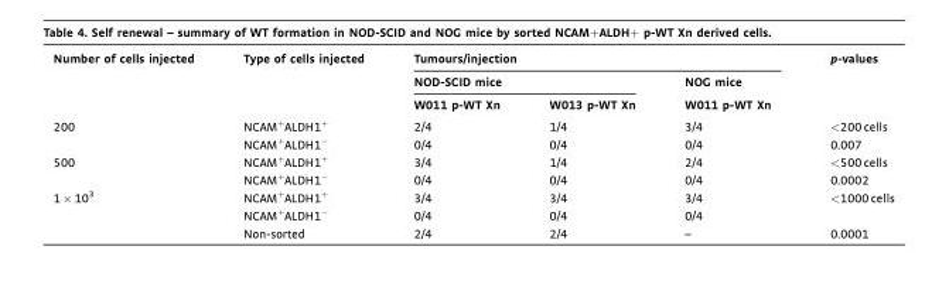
<table><thead><tr><td rowspan="3">Number of cells injected</td><td rowspan="3">Type of cells injected</td><td colspan="3">Tumours/injection</td><td rowspan="3">p-values</td></tr><tr><td colspan="2">NOD-SCID mice</td><td rowspan="2">NOG mice W011 p-WT Xn</td></tr><tr><td>W011 p-WT Xn</td><td>W013 p-WT Xn</td></tr></thead><tbody><tr><td rowspan="2">200</td><td>NCAM<sup>+</sup>ALDH1<sup>+</sup></td><td>2/4</td><td>1/4</td><td>3/4</td><td>&lt;200 cells</td></tr><tr><td>NCAM<sup>+</sup>ALDH1<sup>−</sup></td><td>0/4</td><td>0/4</td><td>0/4</td><td>0.007</td></tr><tr><td rowspan="2">500</td><td>NCAM<sup>+</sup>ALDH1<sup>+</sup></td><td>3/4</td><td>1/4</td><td>2/4</td><td>&lt;500 cells</td></tr><tr><td>NCAM<sup>+</sup>ALDH1<sup>−</sup></td><td>0/4</td><td>0/4</td><td>0/4</td><td>0.0002</td></tr><tr><td rowspan="3">1 × 10<sup>3</sup></td><td>NCAM<sup>+</sup>ALDH1<sup>+</sup></td><td>3/4</td><td>3/4</td><td>3/4</td><td>&lt;1000 cells</td></tr><tr><td>NCAM<sup>+</sup>ALDH1<sup>−</sup></td><td>0/4</td><td>0/4</td><td>0/4</td><td></td></tr><tr><td>Non-sorted</td><td>2/4</td><td>2/4</td><td>–</td><td>0.0001</td></tr></tbody></table>